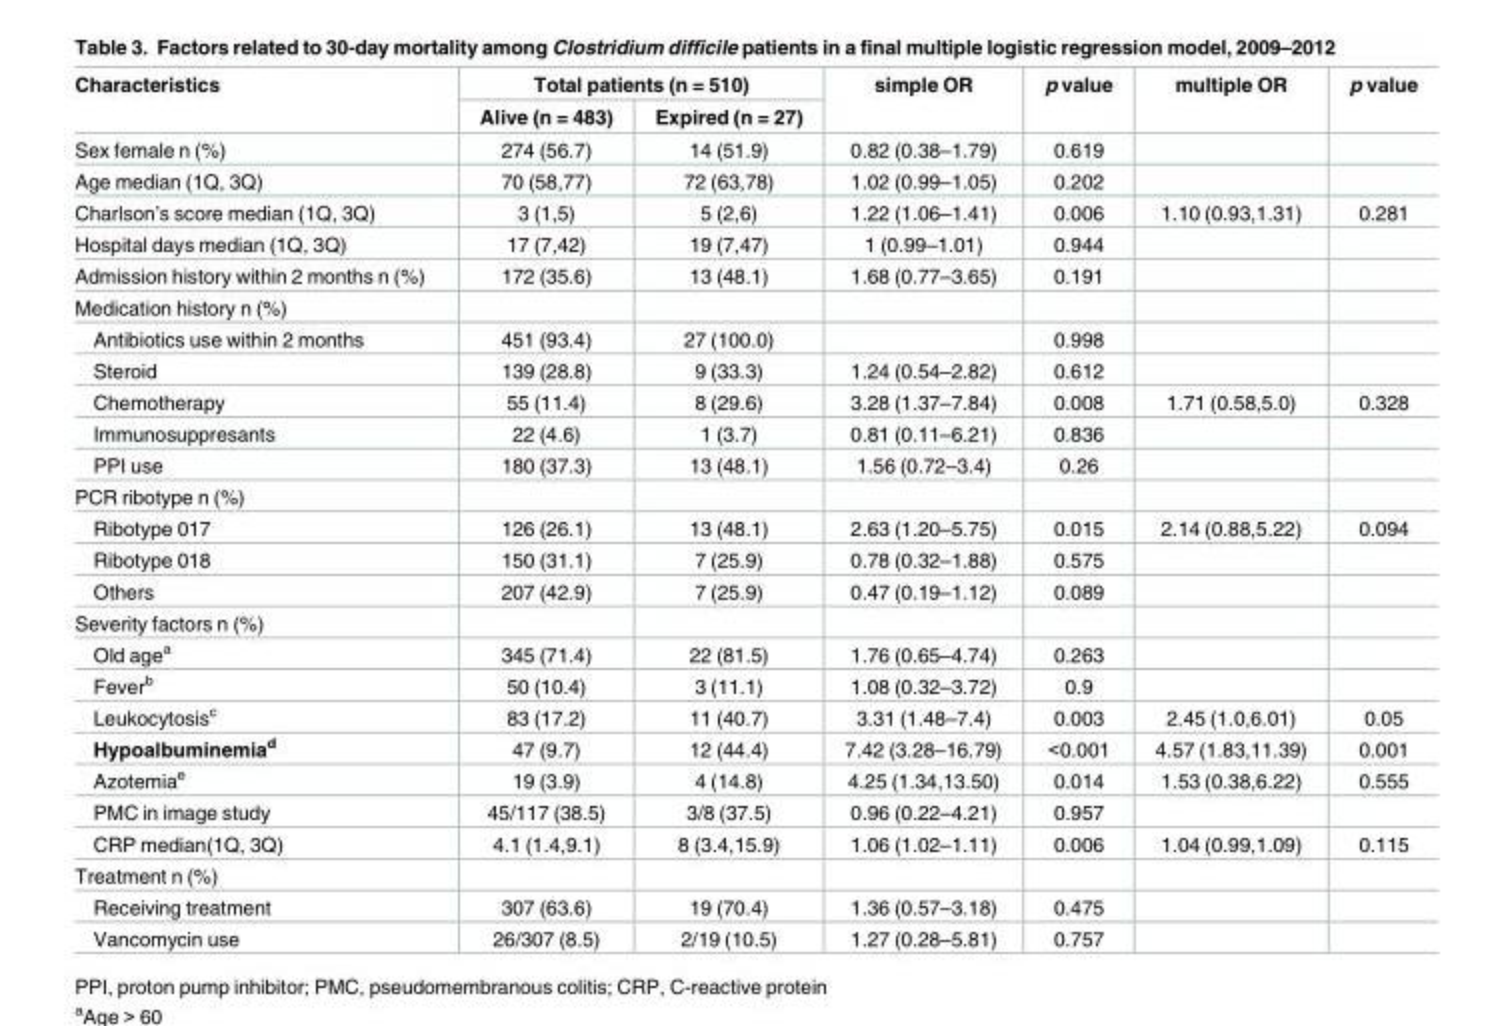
<table><thead><tr><td rowspan="2">Characteristics</td><td colspan="2">Total patients (n = 510)</td><td rowspan="2">simple OR</td><td rowspan="2">p value</td><td rowspan="2">multiple OR</td><td rowspan="2">p value</td></tr><tr><td>Alive (n = 483)</td><td>Expired (n = 27)</td></tr></thead><tbody><tr><td>Sex female n (%)</td><td>274 (56.7)</td><td>14 (51.9)</td><td>0.82 (0.38–1.79)</td><td>0.619</td><td></td><td></td></tr><tr><td>Age median (1Q, 3Q)</td><td>70 (58,77)</td><td>72 (63,78)</td><td>1.02 (0.99–1.05)</td><td>0.202</td><td></td><td></td></tr><tr><td>Charlson’s score median (1Q, 3Q)</td><td>3 (1,5)</td><td>5 (2,6)</td><td>1.22 (1.06–1.41)</td><td>0.006</td><td>1.10 (0.93,1.31)</td><td>0.281</td></tr><tr><td>Hospital days median (1Q, 3Q)</td><td>17 (7,42)</td><td>19 (7,47)</td><td>1 (0.99–1.01)</td><td>0.944</td><td></td><td></td></tr><tr><td>Admission history within 2 months n (%)</td><td>172 (35.6)</td><td>13 (48.1)</td><td>1.68 (0.77–3.65)</td><td>0.191</td><td></td><td></td></tr><tr><td colspan="7">Medication history n (%)</td></tr><tr><td>Antibiotics use within 2 months</td><td>451 (93.4)</td><td>27 (100.0)</td><td></td><td>0.998</td><td></td><td></td></tr><tr><td>Steroid</td><td>139 (28.8)</td><td>9 (33.3)</td><td>1.24 (0.54–2.82)</td><td>0.612</td><td></td><td></td></tr><tr><td>Chemotherapy</td><td>55 (11.4)</td><td>8 (29.6)</td><td>3.28 (1.37–7.84)</td><td>0.008</td><td>1.71 (0.58,5.0)</td><td>0.328</td></tr><tr><td>Immunosuppresants</td><td>22 (4.6)</td><td>1 (3.7)</td><td>0.81 (0.11–6.21)</td><td>0.836</td><td></td><td></td></tr><tr><td>PPI use</td><td>180 (37.3)</td><td>13 (48.1)</td><td>1.56 (0.72–3.4)</td><td>0.26</td><td></td><td></td></tr><tr><td colspan="7">PCR ribotype n (%)</td></tr><tr><td>Ribotype 017</td><td>126 (26.1)</td><td>13 (48.1)</td><td>2.63 (1.20–5.75)</td><td>0.015</td><td>2.14 (0.88,5.22)</td><td>0.094</td></tr><tr><td>Ribotype 018</td><td>150 (31.1)</td><td>7 (25.9)</td><td>0.78 (0.32–1.88)</td><td>0.575</td><td></td><td></td></tr><tr><td>Others</td><td>207 (42.9)</td><td>7 (25.9)</td><td>0.47 (0.19–1.12)</td><td>0.089</td><td></td><td></td></tr><tr><td colspan="7">Severity factors n (%)</td></tr><tr><td>Old age<sup>a</sup></td><td>345 (71.4)</td><td>22 (81.5)</td><td>1.76 (0.65–4.74)</td><td>0.263</td><td></td><td></td></tr><tr><td>Fever<sup>b</sup></td><td>50 (10.4)</td><td>3 (11.1)</td><td>1.08 (0.32–3.72)</td><td>0.9</td><td></td><td></td></tr><tr><td>Leukocytosis<sup>c</sup></td><td>83 (17.2)</td><td>11 (40.7)</td><td>3.31 (1.48–7.4)</td><td>0.003</td><td>2.45 (1.0,6.01)</td><td>0.05</td></tr><tr><td>Hypoalbuminemia<sup>d</sup></td><td>47 (9.7)</td><td>12 (44.4)</td><td>7.42 (3.28–16.79)</td><td>&lt;0.001</td><td>4.57 (1.83,11.39)</td><td>0.001</td></tr><tr><td>Azotemia<sup>e</sup></td><td>19 (3.9)</td><td>4 (14.8)</td><td>4.25 (1.34,13.50)</td><td>0.014</td><td>1.53 (0.38,6.22)</td><td>0.555</td></tr><tr><td>PMC in image study</td><td>45/117 (38.5)</td><td>3/8 (37.5)</td><td>0.96 (0.22–4.21)</td><td>0.957</td><td></td><td></td></tr><tr><td>CRP median(1Q, 3Q)</td><td>4.1 (1.4,9.1)</td><td>8 (3.4,15.9)</td><td>1.06 (1.02–1.11)</td><td>0.006</td><td>1.04 (0.99,1.09)</td><td>0.115</td></tr><tr><td colspan="7">Treatment n (%)</td></tr><tr><td>Receiving treatment</td><td>307 (63.6)</td><td>19 (70.4)</td><td>1.36 (0.57–3.18)</td><td>0.475</td><td></td><td></td></tr><tr><td>Vancomycin use</td><td>26/307 (8.5)</td><td>2/19 (10.5)</td><td>1.27 (0.28–5.81)</td><td>0.757</td><td></td><td></td></tr></tbody></table>